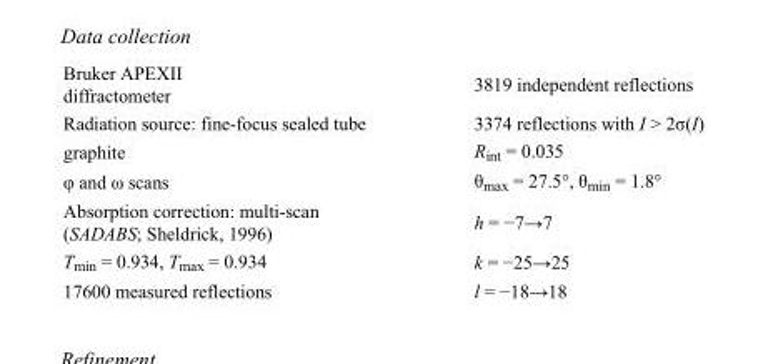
<table><tbody><tr><td>Bruker APEXII diffractometer</td><td>3819 independent reflections</td></tr><tr><td>Radiation source: fine-focus sealed tube</td><td>3374 reflections with I &gt; 2σ(I)</td></tr><tr><td>graphite</td><td>R<sub>int</sub> = 0.035</td></tr><tr><td>φ and ω scans</td><td>θ<sub>max</sub> = 27.5°, θ<sub>min</sub> = 1.8°</td></tr><tr><td>Absorption correction: multi-scan (SADABS; Sheldrick, 1996)</td><td>h = −7→7</td></tr><tr><td>T<sub>min</sub> = 0.934, T<sub>max</sub> = 0.934</td><td>k = −25→25</td></tr><tr><td>17600 measured reflections</td><td>l = −18→18</td></tr></tbody></table>